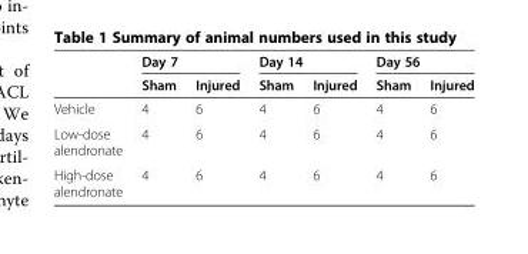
<table><thead><tr><td rowspan="2"></td><td colspan="2">Day 7</td><td colspan="2">Day 14</td><td colspan="2">Day 56</td></tr><tr><td>Sham</td><td>Injured</td><td>Sham</td><td>Injured</td><td>Sham</td><td>Injured</td></tr></thead><tbody><tr><td>Vehicle</td><td>4</td><td>6</td><td>4</td><td>6</td><td>4</td><td>6</td></tr><tr><td>Low-dose alendronate</td><td>4</td><td>6</td><td>4</td><td>6</td><td>4</td><td>6</td></tr><tr><td>High-dose alendronate</td><td>4</td><td>6</td><td>4</td><td>6</td><td>4</td><td>6</td></tr></tbody></table>